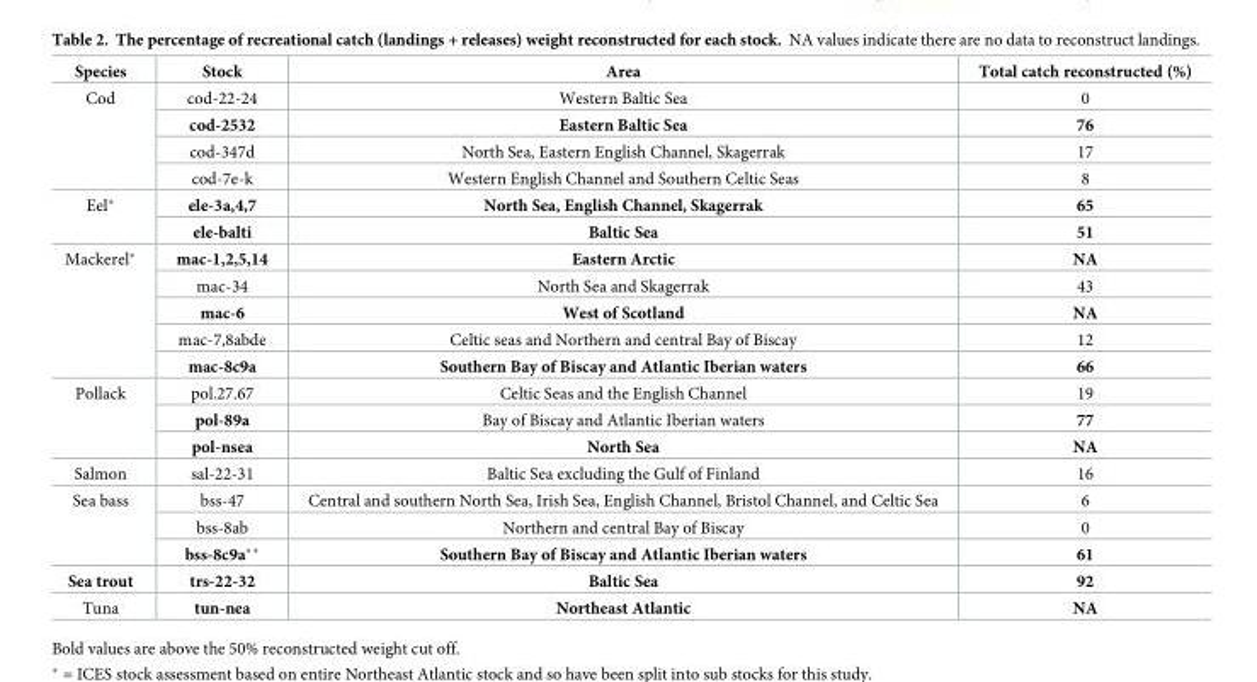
<table><thead><tr><td>Species</td><td>Stock</td><td>Area</td><td>Total catch reconstructed (%)</td></tr></thead><tbody><tr><td rowspan="4">Cod</td><td>cod-22-24</td><td>Western Baltic Sea</td><td>0</td></tr><tr><td>cod-2532</td><td>Eastern Baltic Sea</td><td>76</td></tr><tr><td>cod-347d</td><td>North Sea, Eastern English Channel, Skagerrak</td><td>17</td></tr><tr><td>cod-7e-k</td><td>Western English Channel and Southern Celtic Seas</td><td>8</td></tr><tr><td rowspan="2">Eel*</td><td>ele-3a,4,7</td><td>North Sea, English Channel, Skagerrak</td><td>65</td></tr><tr><td>ele-balti</td><td>Baltic Sea</td><td>51</td></tr><tr><td rowspan="5">Mackerel*</td><td>mac-1,2,5,14</td><td>Eastern Arctic</td><td>NA</td></tr><tr><td>mac-34</td><td>North Sea and Skagerrak</td><td>43</td></tr><tr><td>mac-6</td><td>West of Scotland</td><td>NA</td></tr><tr><td>mac-7,8abde</td><td>Celtic seas and Northern and central Bay of Biscay</td><td>12</td></tr><tr><td>mac-8c9a</td><td>Southern Bay of Biscay and Atlantic Iberian waters</td><td>66</td></tr><tr><td rowspan="3">Pollack</td><td>pol.27.67</td><td>Celtic Seas and the English Channel</td><td>19</td></tr><tr><td>pol-89a</td><td>Bay of Biscay and Atlantic Iberian waters</td><td>77</td></tr><tr><td>pol-nsea</td><td>North Sea</td><td>NA</td></tr><tr><td>Salmon</td><td>sal-22-31</td><td>Baltic Sea excluding the Gulf of Finland</td><td>16</td></tr><tr><td rowspan="3">Sea bass</td><td>bss-47</td><td>Central and southern North Sea, Irish Sea, English Channel, Bristol Channel, and Celtic Sea</td><td>6</td></tr><tr><td>bss-8ab</td><td>Northern and central Bay of Biscay</td><td>0</td></tr><tr><td>bss-8c9a**</td><td>Southern Bay of Biscay and Atlantic Iberian waters</td><td>61</td></tr><tr><td>Sea trout</td><td>trs-22-32</td><td>Baltic Sea</td><td>92</td></tr><tr><td>Tuna</td><td>tun-nea</td><td>Northeast Atlantic</td><td>NA</td></tr></tbody></table>